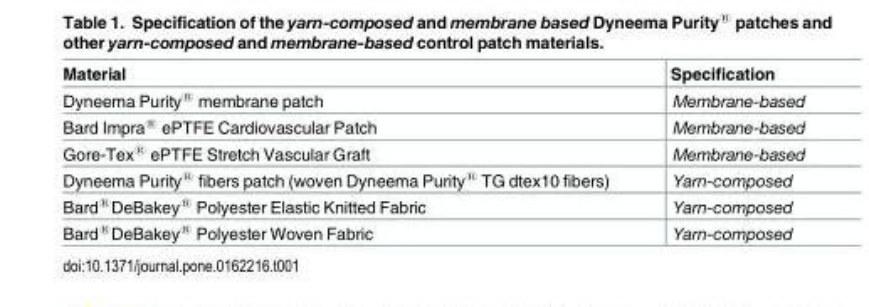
<table><thead><tr><td>Material</td><td>Specification</td></tr></thead><tbody><tr><td>Dyneema Purity<sup>®</sup> membrane patch</td><td>Membrane-based</td></tr><tr><td>Bard Impra<sup>®</sup> ePTFE Cardiovascular Patch</td><td>Membrane-based</td></tr><tr><td>Gore-Tex<sup>®</sup> ePTFE Stretch Vascular Graft</td><td>Membrane-based</td></tr><tr><td>Dyneema Purity<sup>®</sup> fibers patch (woven Dyneema Purity<sup>®</sup> TG dtex10 fibers)</td><td>Yarn-composed</td></tr><tr><td>Bard<sup>®</sup>DeBakey<sup>®</sup> Polyester Elastic Knitted Fabric</td><td>Yarn-composed</td></tr><tr><td>Bard<sup>®</sup>DeBakey<sup>®</sup> Polyester Woven Fabric</td><td>Yarn-composed</td></tr></tbody></table>